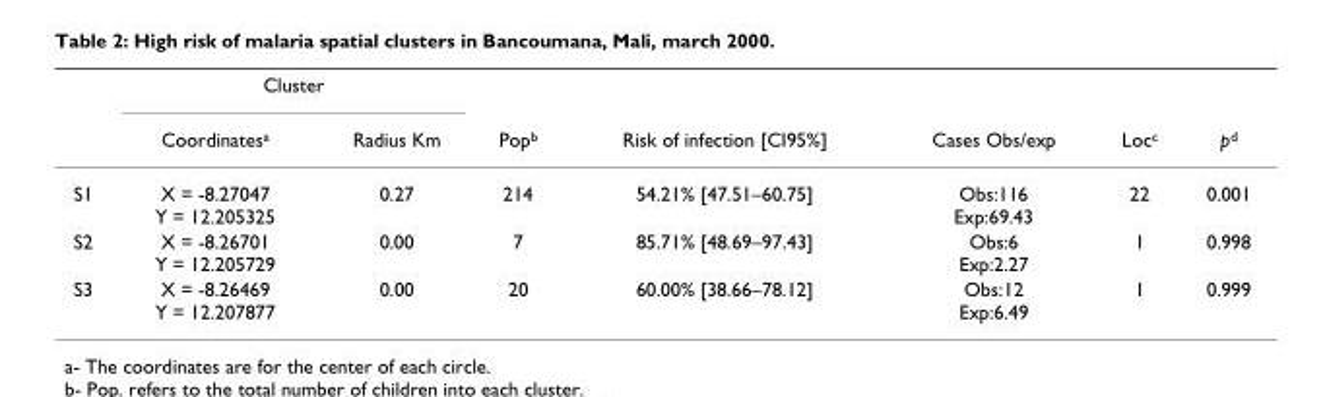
<table><thead><tr><td rowspan="2"></td><td colspan="2">Cluster</td><td rowspan="2">Pop<sup>b</sup></td><td rowspan="2">Risk of infection [CI95%]</td><td rowspan="2">Cases Obs/exp</td><td rowspan="2">Loc<sup>c</sup></td><td rowspan="2">p<sup>d</sup></td></tr><tr><td>Coordinates<sup>a</sup></td><td>Radius Km</td></tr></thead><tbody><tr><td>S1</td><td>X = -8.27047 Y = 12.205325</td><td>0.27</td><td>214</td><td>54.21% [47.51–60.75]</td><td>Obs:116 Exp:69.43</td><td>22</td><td>0.001</td></tr><tr><td>S2</td><td>X = -8.26701 Y = 12.205729</td><td>0.00</td><td>7</td><td>85.71% [48.69–97.43]</td><td>Obs:6 Exp:2.27</td><td>1</td><td>0.998</td></tr><tr><td>S3</td><td>X = -8.26469 Y = 12.207877</td><td>0.00</td><td>20</td><td>60.00% [38.66–78.12]</td><td>Obs:12 Exp:6.49</td><td>1</td><td>0.999</td></tr></tbody></table>